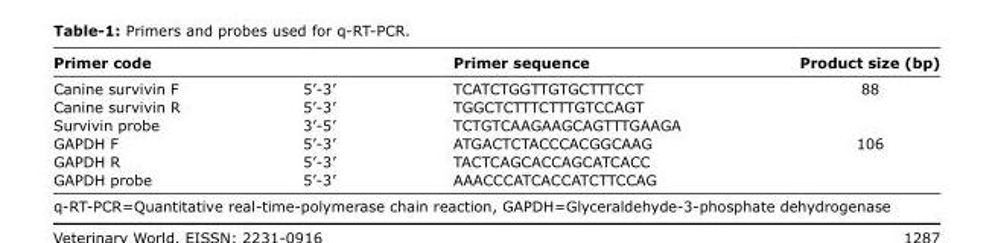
<table><thead><tr><td>Primer code</td><td></td><td>Primer sequence</td><td>Product size (bp)</td></tr></thead><tbody><tr><td>Canine survivin F</td><td>5’-3’</td><td>TCATCTGGTTGTGCTTTCCT</td><td>88</td></tr><tr><td>Canine survivin R</td><td>5’-3’</td><td>TGGCTCTTTCTTTGTCCAGT</td><td></td></tr><tr><td>Survivin probe</td><td>3’-5’</td><td>TCTGTCAAGAAGCAGTTTGAAGA</td><td></td></tr><tr><td>GAPDH F</td><td>5’-3’</td><td>ATGACTCTACCCACGGCAAG</td><td>106</td></tr><tr><td>GAPDH R</td><td>5’-3’</td><td>TACTCAGCACCAGCATCACC</td><td></td></tr><tr><td>GAPDH probe</td><td>5’-3’</td><td>AAACCCATCACCATCTTCCAG</td><td></td></tr></tbody></table>